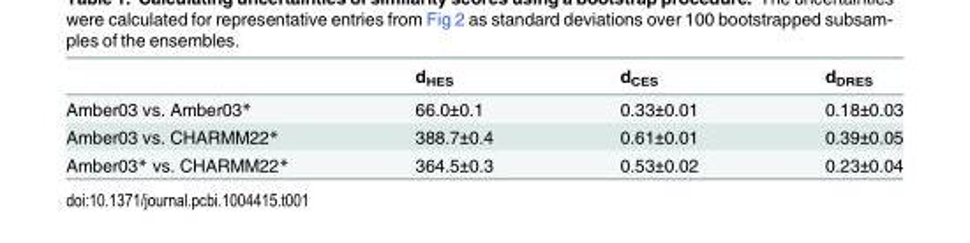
<table><thead><tr><td></td><td>d<sub>HES</sub></td><td>d<sub>CES</sub></td><td>d<sub>DRES</sub></td></tr></thead><tbody><tr><td>Amber03 vs. Amber03*</td><td>66.0±0.1</td><td>0.33±0.01</td><td>0.18±0.03</td></tr><tr><td>Amber03 vs. CHARMM22*</td><td>388.7±0.4</td><td>0.61±0.01</td><td>0.39±0.05</td></tr><tr><td>Amber03* vs. CHARMM22*</td><td>364.5±0.3</td><td>0.53±0.02</td><td>0.23±0.04</td></tr></tbody></table>